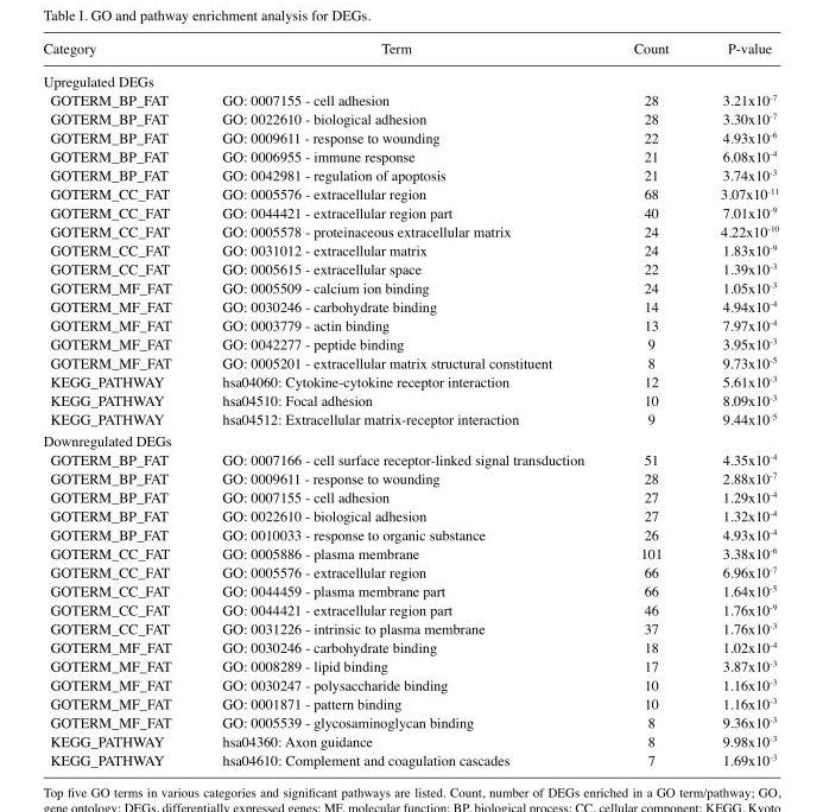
<table><thead><tr><td>Category</td><td>Term</td><td>Count</td><td>P-value</td></tr></thead><tbody><tr><td colspan="4">Upregulated DEGs</td></tr><tr><td>GOTERM_BP_FAT</td><td>GO: 0007155 - cell adhesion</td><td>28</td><td>3.21x10-7</td></tr><tr><td>GOTERM_BP_FAT</td><td>GO: 0022610 - biological adhesion</td><td>28</td><td>3.30x10-7</td></tr><tr><td>GOTERM_BP_FAT</td><td>GO: 0009611 - response to wounding</td><td>22</td><td>4.93x10-6</td></tr><tr><td>GOTERM_BP_FAT</td><td>GO: 0006955 - immune response</td><td>21</td><td>6.08x10-4</td></tr><tr><td>GOTERM_BP_FAT</td><td>GO: 0042981 - regulation of apoptosis</td><td>21</td><td>3.74x10-3</td></tr><tr><td>GOTERM_CC_FAT</td><td>GO: 0005576 - extracellular region</td><td>68</td><td>3.07x10-11</td></tr><tr><td>GOTERM_CC_FAT</td><td>GO: 0044421 - extracellular region part</td><td>40</td><td>7.01x10-9</td></tr><tr><td>GOTERM_CC_FAT</td><td>GO: 0005578 - proteinaceous extracellular matrix</td><td>24</td><td>4.22x10-10</td></tr><tr><td>GOTERM_CC_FAT</td><td>GO: 0031012 - extracellular matrix</td><td>24</td><td>1.83x10-9</td></tr><tr><td>GOTERM_CC_FAT</td><td>GO: 0005615 - extracellular space</td><td>22</td><td>1.39x10-3</td></tr><tr><td>GOTERM_MF_FAT</td><td>GO: 0005509 - calcium ion binding</td><td>24</td><td>1.05x10-3</td></tr><tr><td>GOTERM_MF_FAT</td><td>GO: 0030246 - carbohydrate binding</td><td>14</td><td>4.94x10-4</td></tr><tr><td>GOTERM_MF_FAT</td><td>GO: 0003779 - actin binding</td><td>13</td><td>7.97x10-4</td></tr><tr><td>GOTERM_MF_FAT</td><td>GO: 0042277 - peptide binding</td><td>9</td><td>3.95x10-3</td></tr><tr><td>GOTERM_MF_FAT</td><td>GO: 0005201 - extracellular matrix structural constituent</td><td>8</td><td>9.73x10-5</td></tr><tr><td>KEGG_PATHWAY</td><td>hsa04060: Cytokine-cytokine receptor interaction</td><td>12</td><td>5.61x10-3</td></tr><tr><td>KEGG_PATHWAY</td><td>hsa04510: Focal adhesion</td><td>10</td><td>8.09x10-3</td></tr><tr><td>KEGG_PATHWAY</td><td>hsa04512: Extracellular matrix-receptor interaction</td><td>9</td><td>9.44x10-5</td></tr><tr><td colspan="4">Downregulated DEGs</td></tr><tr><td>GOTERM_BP_FAT</td><td>GO: 0007166 - cell surface receptor-linked signal transduction</td><td>51</td><td>4.35x10-4</td></tr><tr><td>GOTERM_BP_FAT</td><td>GO: 0009611 - response to wounding</td><td>28</td><td>2.88x10-7</td></tr><tr><td>GOTERM_BP_FAT</td><td>GO: 0007155 - cell adhesion</td><td>27</td><td>1.29x10-4</td></tr><tr><td>GOTERM_BP_FAT</td><td>GO: 0022610 - biological adhesion</td><td>27</td><td>1.32x10-4</td></tr><tr><td>GOTERM_BP_FAT</td><td>GO: 0010033 - response to organic substance</td><td>26</td><td>4.93x10-4</td></tr><tr><td>GOTERM_CC_FAT</td><td>GO: 0005886 - plasma membrane</td><td>101</td><td>3.38x10-6</td></tr><tr><td>GOTERM_CC_FAT</td><td>GO: 0005576 - extracellular region</td><td>66</td><td>6.96x10-7</td></tr><tr><td>GOTERM_CC_FAT</td><td>GO: 0044459 - plasma membrane part</td><td>66</td><td>1.64x10-5</td></tr><tr><td>GOTERM_CC_FAT</td><td>GO: 0044421 - extracellular region part</td><td>46</td><td>1.76x10-9</td></tr><tr><td>GOTERM_CC_FAT</td><td>GO: 0031226 - intrinsic to plasma membrane</td><td>37</td><td>1.76x10-3</td></tr><tr><td>GOTERM_MF_FAT</td><td>GO: 0030246 - carbohydrate binding</td><td>18</td><td>1.02x10-4</td></tr><tr><td>GOTERM_MF_FAT</td><td>GO: 0008289 - lipid binding</td><td>17</td><td>3.87x10-3</td></tr><tr><td>GOTERM_MF_FAT</td><td>GO: 0030247 - polysaccharide binding</td><td>10</td><td>1.16x10-3</td></tr><tr><td>GOTERM_MF_FAT</td><td>GO: 0001871 - pattern binding</td><td>10</td><td>1.16x10-3</td></tr><tr><td>GOTERM_MF_FAT</td><td>GO: 0005539 - glycosaminoglycan binding</td><td>8</td><td>9.36x10-3</td></tr><tr><td>KEGG_PATHWAY</td><td>hsa04360: Axon guidance</td><td>8</td><td>9.98x10-3</td></tr><tr><td>KEGG_PATHWAY</td><td>hsa04610: Complement and coagulation cascades</td><td>7</td><td>1.69x10-3</td></tr></tbody></table>